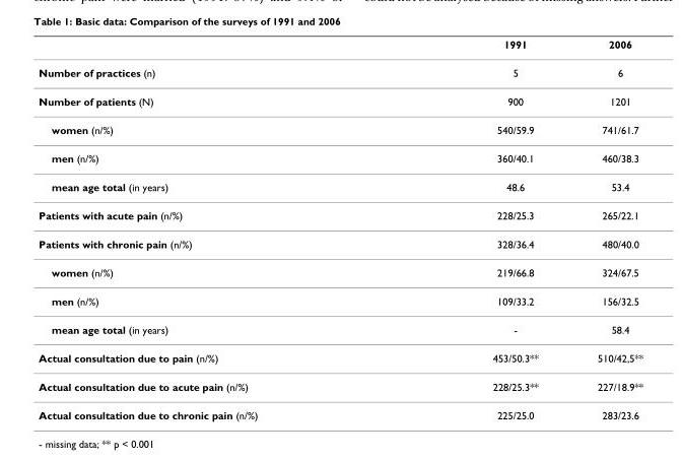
<table><thead><tr><td></td><td>1991</td><td>2006</td></tr></thead><tbody><tr><td>Number of practices (n)</td><td>5</td><td>6</td></tr><tr><td>Number of patients (N)</td><td>900</td><td>1201</td></tr><tr><td>women (n/%)</td><td>540/59.9</td><td>741/61.7</td></tr><tr><td>men (n/%)</td><td>360/40.1</td><td>460/38.3</td></tr><tr><td>mean age total (in years)</td><td>48.6</td><td>53.4</td></tr><tr><td>Patients with acute pain (n/%)</td><td>228/25.3</td><td>265/22.1</td></tr><tr><td>Patients with chronic pain (n/%)</td><td>328/36.4</td><td>480/40.0</td></tr><tr><td>women (n/%)</td><td>219/66.8</td><td>324/67.5</td></tr><tr><td>men (n/%)</td><td>109/33.2</td><td>156/32.5</td></tr><tr><td>mean age total (in years)</td><td>-</td><td>58.4</td></tr><tr><td>Actual consultation due to pain (n/%)</td><td>453/50.3**</td><td>510/42,5**</td></tr><tr><td>Actual consultation due to acute pain (n/%)</td><td>228/25.3**</td><td>227/18.9**</td></tr><tr><td>Actual consultation due to chronic pain (n/%)</td><td>225/25.0</td><td>283/23.6</td></tr></tbody></table>